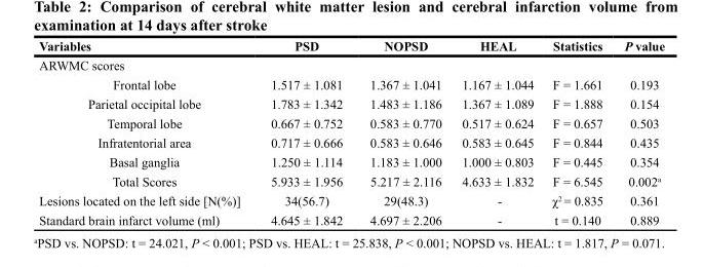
<table><thead><tr><td>Variables</td><td>PSD</td><td>NOPSD</td><td>HEAL</td><td>Statistics</td><td>P value</td></tr></thead><tbody><tr><td colspan="6">ARWMC scores</td></tr><tr><td>Frontal lobe</td><td>1.517 ± 1.081</td><td>1.367 ± 1.041</td><td>1.167 ± 1.044</td><td>F = 1.661</td><td>0.193</td></tr><tr><td>Parietal occipital lobe</td><td>1.783 ± 1.342</td><td>1.483 ± 1.186</td><td>1.367 ± 1.089</td><td>F = 1.888</td><td>0.154</td></tr><tr><td>Temporal lobe</td><td>0.667 ± 0.752</td><td>0.583 ± 0.770</td><td>0.517 ± 0.624</td><td>F = 0.657</td><td>0.503</td></tr><tr><td>Infratentorial area</td><td>0.717 ± 0.666</td><td>0.583 ± 0.646</td><td>0.583 ± 0.645</td><td>F = 0.844</td><td>0.435</td></tr><tr><td>Basal ganglia</td><td>1.250 ± 1.114</td><td>1.183 ± 1.000</td><td>1.000 ± 0.803</td><td>F = 0.445</td><td>0.354</td></tr><tr><td>Total Scores</td><td>5.933 ± 1.956</td><td>5.217 ± 2.116</td><td>4.633 ± 1.832</td><td>F = 6.545</td><td>0.002<sup>a</sup></td></tr><tr><td>Lesions located on the left side [N(%)]</td><td>34(56.7)</td><td>29(48.3)</td><td>-</td><td>χ<sup>2</sup> = 0.835</td><td>0.361</td></tr><tr><td>Standard brain infarct volume (ml)</td><td>4.645 ± 1.842</td><td>4.697 ± 2.206</td><td>-</td><td>t = 0.140</td><td>0.889</td></tr></tbody></table>